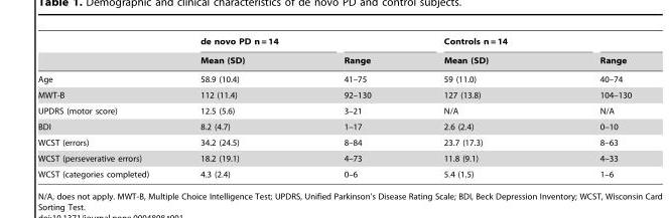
<table><thead><tr><td rowspan="2"></td><td rowspan="2">de novo PD n = 14 Mean (SD)</td><td rowspan="2">Range</td><td rowspan="2">Controls n = 14 Mean (SD)</td><td rowspan="2">Range</td></tr><tr></tr></thead><tbody><tr><td>Age</td><td>58.9 (10.4)</td><td>41–75</td><td>59 (11.0)</td><td>40–74</td></tr><tr><td>MWT-B</td><td>112 (11.4)</td><td>92–130</td><td>127 (13.8)</td><td>104–130</td></tr><tr><td>UPDRS (motor score)</td><td>12.5 (5.6)</td><td>3–21</td><td>N/A</td><td>N/A</td></tr><tr><td>BDI</td><td>8.2 (4.7)</td><td>1–17</td><td>2.6 (2.4)</td><td>0–10</td></tr><tr><td>WCST (errors)</td><td>34.2 (24.5)</td><td>8–84</td><td>23.7 (17.3)</td><td>8–63</td></tr><tr><td>WCST (perseverative errors)</td><td>18.2 (19.1)</td><td>4–73</td><td>11.8 (9.1)</td><td>4–33</td></tr><tr><td>WCST (categories completed)</td><td>4.3 (2.4)</td><td>0–6</td><td>5.4 (1.5)</td><td>1–6</td></tr></tbody></table>